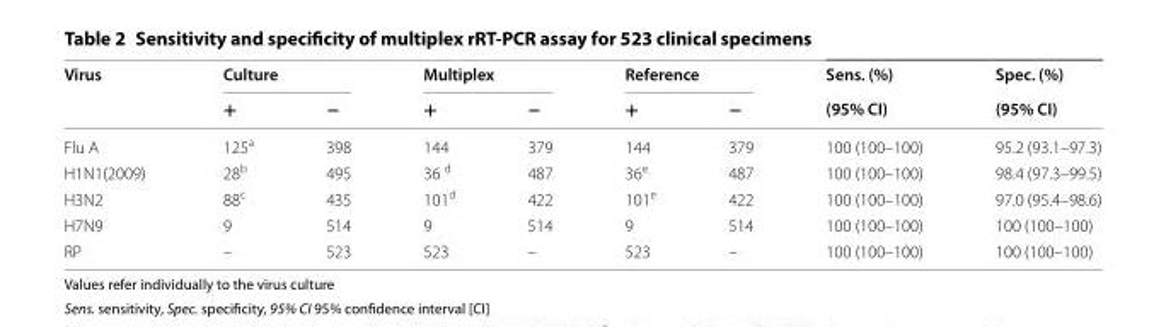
<table><thead><tr><td rowspan="2">Virus</td><td colspan="2">Culture</td><td colspan="2">Multiplex</td><td colspan="2">Reference</td><td rowspan="2">Sens. (%) (95% CI)</td><td rowspan="2">Spec. (%) (95% CI)</td></tr><tr><td>+</td><td>−</td><td>+</td><td>−</td><td>+</td><td>−</td></tr></thead><tbody><tr><td>Flu A</td><td>125<sup>a</sup></td><td>398</td><td>144</td><td>379</td><td>144</td><td>379</td><td>100 (100–100)</td><td>95.2 (93.1–97.3)</td></tr><tr><td>H1N1(2009)</td><td>28<sup>b</sup></td><td>495</td><td>36 <sup>d</sup></td><td>487</td><td>36<sup>e</sup></td><td>487</td><td>100 (100–100)</td><td>98.4 (97.3–99.5)</td></tr><tr><td>H3N2</td><td>88<sup>c</sup></td><td>435</td><td>101<sup>d</sup></td><td>422</td><td>101<sup>e</sup></td><td>422</td><td>100 (100–100)</td><td>97.0 (95.4–98.6)</td></tr><tr><td>H7N9</td><td>9</td><td>514</td><td>9</td><td>514</td><td>9</td><td>514</td><td>100 (100–100)</td><td>100 (100–100)</td></tr><tr><td>RP</td><td>–</td><td>523</td><td>523</td><td>–</td><td>523</td><td>–</td><td>100 (100–100)</td><td>100 (100–100)</td></tr></tbody></table>